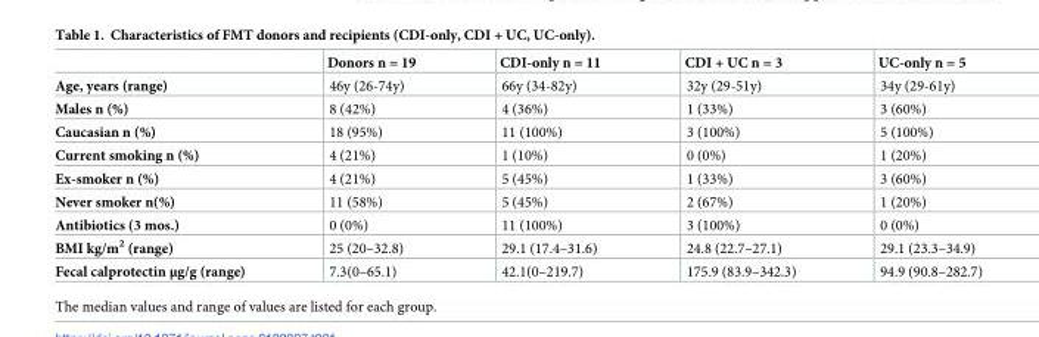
<table><thead><tr><td></td><td>Donors n = 19</td><td>CDI-only n = 11</td><td>CDI + UC n = 3</td><td>UC-only n = 5</td></tr></thead><tbody><tr><td>Age, years (range)</td><td>46y (26-74y)</td><td>66y (34-82y)</td><td>32y (29-51y)</td><td>34y (29-61y)</td></tr><tr><td>Males n (%)</td><td>8 (42%)</td><td>4 (36%)</td><td>1 (33%)</td><td>3 (60%)</td></tr><tr><td>Caucasian n (%)</td><td>18 (95%)</td><td>11 (100%)</td><td>3 (100%)</td><td>5 (100%)</td></tr><tr><td>Current smoking n (%)</td><td>4 (21%)</td><td>1 (10%)</td><td>0 (0%)</td><td>1 (20%)</td></tr><tr><td>Ex-smoker n (%)</td><td>4 (21%)</td><td>5 (45%)</td><td>1 (33%)</td><td>3 (60%)</td></tr><tr><td>Never smoker n(%)</td><td>11 (58%)</td><td>5 (45%)</td><td>2 (67%)</td><td>1 (20%)</td></tr><tr><td>Antibiotics (3 mos.)</td><td>0 (0%)</td><td>11 (100%)</td><td>3 (100%)</td><td>0 (0%)</td></tr><tr><td>BMI kg/m<sup>2</sup> (range)</td><td>25 (20–32.8)</td><td>29.1 (17.4–31.6)</td><td>24.8 (22.7–27.1)</td><td>29.1 (23.3–34.9)</td></tr><tr><td>Fecal calprotectin μg/g (range)</td><td>7.3(0–65.1)</td><td>42.1(0–219.7)</td><td>175.9 (83.9–342.3)</td><td>94.9 (90.8–282.7)</td></tr></tbody></table>